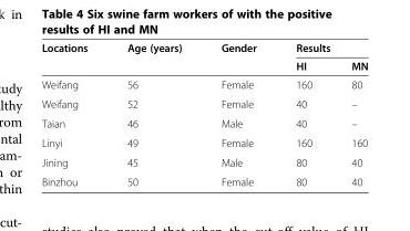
<table><thead><tr><td rowspan="2">Locations</td><td rowspan="2">Age (years)</td><td rowspan="2">Gender</td><td colspan="2">Results</td></tr><tr><td>HI</td><td>MN</td></tr></thead><tbody><tr><td>Weifang</td><td>56</td><td>Female</td><td>160</td><td>80</td></tr><tr><td>Weifang</td><td>52</td><td>Female</td><td>40</td><td>–</td></tr><tr><td>Taian</td><td>46</td><td>Male</td><td>40</td><td>–</td></tr><tr><td>Linyi</td><td>49</td><td>Female</td><td>160</td><td>160</td></tr><tr><td>Jining</td><td>45</td><td>Male</td><td>80</td><td>40</td></tr><tr><td>Binzhou</td><td>50</td><td>Female</td><td>80</td><td>40</td></tr></tbody></table>